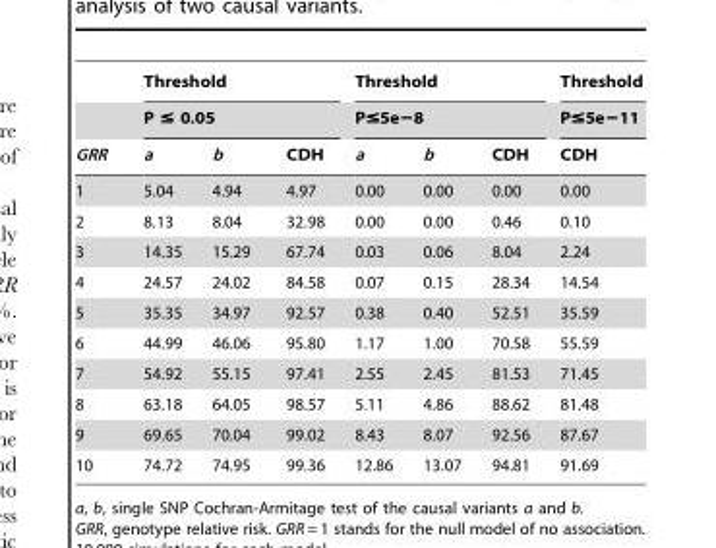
<table><thead><tr><td rowspan="3">GRR</td><td rowspan="2" colspan="3">Threshold P ≤ 0.05</td><td rowspan="2" colspan="3">Threshold P≤5e−8</td><td rowspan="3">Threshold P≤5e−11 CDH</td></tr><tr></tr><tr><td>a</td><td>b</td><td>CDH</td><td>a</td><td>b</td><td>CDH</td></tr></thead><tbody><tr><td>1</td><td>5.04</td><td>4.94</td><td>4.97</td><td>0.00</td><td>0.00</td><td>0.00</td><td>0.00</td></tr><tr><td>2</td><td>8.13</td><td>8.04</td><td>32.98</td><td>0.00</td><td>0.00</td><td>0.46</td><td>0.10</td></tr><tr><td>3</td><td>14.35</td><td>15.29</td><td>67.74</td><td>0.03</td><td>0.06</td><td>8.04</td><td>2.24</td></tr><tr><td>4</td><td>24.57</td><td>24.02</td><td>84.58</td><td>0.07</td><td>0.15</td><td>28.34</td><td>14.54</td></tr><tr><td>5</td><td>35.35</td><td>34.97</td><td>92.57</td><td>0.38</td><td>0.40</td><td>52.51</td><td>35.59</td></tr><tr><td>6</td><td>44.99</td><td>46.06</td><td>95.80</td><td>1.17</td><td>1.00</td><td>70.58</td><td>55.59</td></tr><tr><td>7</td><td>54.92</td><td>55.15</td><td>97.41</td><td>2.55</td><td>2.45</td><td>81.53</td><td>71.45</td></tr><tr><td>8</td><td>63.18</td><td>64.05</td><td>98.57</td><td>5.11</td><td>4.86</td><td>88.62</td><td>81.48</td></tr><tr><td>9</td><td>69.65</td><td>70.04</td><td>99.02</td><td>8.43</td><td>8.07</td><td>92.56</td><td>87.67</td></tr><tr><td>10</td><td>74.72</td><td>74.95</td><td>99.36</td><td>12.86</td><td>13.07</td><td>94.81</td><td>91.69</td></tr></tbody></table>